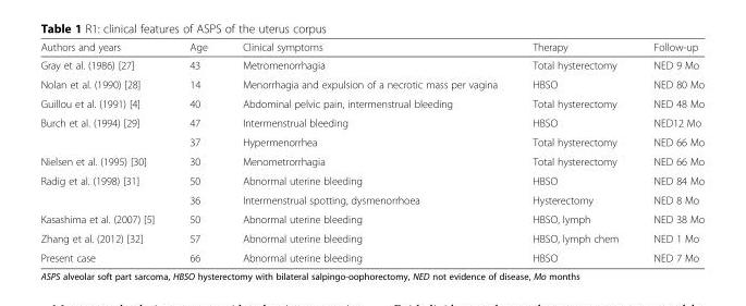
<table><thead><tr><td>Authors and years</td><td>Age</td><td>Clinical symptoms</td><td>Therapy</td><td>Follow-up</td></tr></thead><tbody><tr><td>Gray et al. (1986) [27]</td><td>43</td><td>Metromenorrhagia</td><td>Total hysterectomy</td><td>NED 9 Mo</td></tr><tr><td>Nolan et al. (1990) [28]</td><td>14</td><td>Menorrhagia and expulsion of a necrotic mass per vagina</td><td>HBSO</td><td>NED 80 Mo</td></tr><tr><td>Guillou et al. (1991) [4]</td><td>40</td><td>Abdominal pelvic pain, intermenstrual bleeding</td><td>Total hysterectomy</td><td>NED 48 Mo</td></tr><tr><td rowspan="2">Burch et al. (1994) [29]</td><td>47</td><td>Intermenstrual bleeding</td><td>HBSO</td><td>NED12 Mo</td></tr><tr><td>37</td><td>Hypermenorrhea</td><td>Total hysterectomy</td><td>NED 66 Mo</td></tr><tr><td>Nielsen et al. (1995) [30]</td><td>30</td><td>Menometrorrhagia</td><td>Total hysterectomy</td><td>NED 66 Mo</td></tr><tr><td rowspan="2">Radig et al. (1998) [31]</td><td>50</td><td>Abnormal uterine bleeding</td><td>HBSO</td><td>NED 84 Mo</td></tr><tr><td>36</td><td>Intermenstrual spotting, dysmenorrhoea</td><td>Hysterectomy</td><td>NED 8 Mo</td></tr><tr><td>Kasashima et al. (2007) [5]</td><td>50</td><td>Abnormal uterine bleeding</td><td>HBSO, lymph</td><td>NED 38 Mo</td></tr><tr><td>Zhang et al. (2012) [32]</td><td>57</td><td>Abnormal uterine bleeding</td><td>HBSO, lymph chem</td><td>NED 1 Mo</td></tr><tr><td>Present case</td><td>66</td><td>Abnormal uterine bleeding</td><td>HBSO</td><td>NED 7 Mo</td></tr></tbody></table>